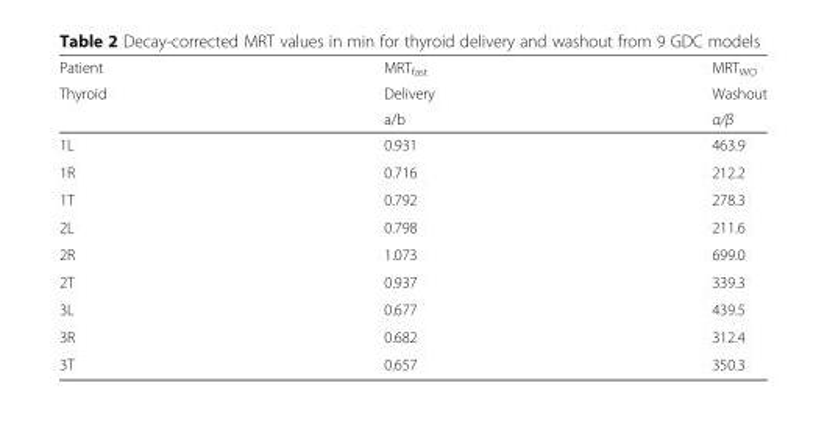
<table><thead><tr><td rowspan="3">Patient Thyroid</td><td rowspan="3">MRT<sub>fast</sub> Delivery a/b</td><td rowspan="3">MRT<sub>WO</sub> Washout α/β</td></tr><tr></tr><tr></tr></thead><tbody><tr><td>1L</td><td>0.931</td><td>463.9</td></tr><tr><td>1R</td><td>0.716</td><td>212.2</td></tr><tr><td>1T</td><td>0.792</td><td>278.3</td></tr><tr><td>2L</td><td>0.798</td><td>211.6</td></tr><tr><td>2R</td><td>1.073</td><td>699.0</td></tr><tr><td>2T</td><td>0.937</td><td>339.3</td></tr><tr><td>3L</td><td>0.677</td><td>439.5</td></tr><tr><td>3R</td><td>0.682</td><td>312.4</td></tr><tr><td>3T</td><td>0.657</td><td>350.3</td></tr></tbody></table>